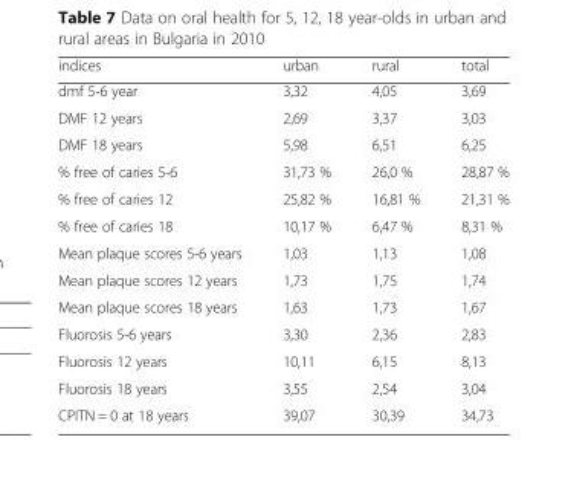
<table><thead><tr><td>indices</td><td>urban</td><td>rural</td><td>total</td></tr></thead><tbody><tr><td>dmf 5-6 year</td><td>3,32</td><td>4,05</td><td>3,69</td></tr><tr><td>DMF 12 years</td><td>2,69</td><td>3,37</td><td>3,03</td></tr><tr><td>DMF 18 years</td><td>5,98</td><td>6,51</td><td>6,25</td></tr><tr><td>% free of caries 5-6</td><td>31,73 %</td><td>26,0 %</td><td>28,87 %</td></tr><tr><td>% free of caries 12</td><td>25,82 %</td><td>16,81 %</td><td>21,31 %</td></tr><tr><td>% free of caries 18</td><td>10,17 %</td><td>6,47 %</td><td>8,31 %</td></tr><tr><td>Mean plaque scores 5-6 years</td><td>1,03</td><td>1,13</td><td>1,08</td></tr><tr><td>Mean plaque scores 12 years</td><td>1,73</td><td>1,75</td><td>1,74</td></tr><tr><td>Mean plaque scores 18 years</td><td>1,63</td><td>1,73</td><td>1,67</td></tr><tr><td>Fluorosis 5-6 years</td><td>3,30</td><td>2,36</td><td>2,83</td></tr><tr><td>Fluorosis 12 years</td><td>10,11</td><td>6,15</td><td>8,13</td></tr><tr><td>Fluorosis 18 years</td><td>3,55</td><td>2,54</td><td>3,04</td></tr><tr><td>CPITN = 0 at 18 years</td><td>39,07</td><td>30,39</td><td>34,73</td></tr></tbody></table>